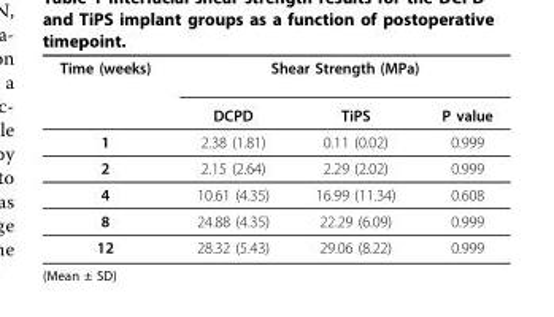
<table><thead><tr><td rowspan="2">Time (weeks)</td><td colspan="3">Shear Strength (MPa)</td></tr><tr><td>DCPD</td><td>TiPS</td><td>P value</td></tr></thead><tbody><tr><td>1</td><td>2.38 (1.81)</td><td>0.11 (0.02)</td><td>0.999</td></tr><tr><td>2</td><td>2.15 (2.64)</td><td>2.29 (2.02)</td><td>0.999</td></tr><tr><td>4</td><td>10.61 (4.35)</td><td>16.99 (11.34)</td><td>0.608</td></tr><tr><td>8</td><td>24.88 (4.35)</td><td>22.29 (6.09)</td><td>0.999</td></tr><tr><td>12</td><td>28.32 (5.43)</td><td>29.06 (8.22)</td><td>0.999</td></tr></tbody></table>